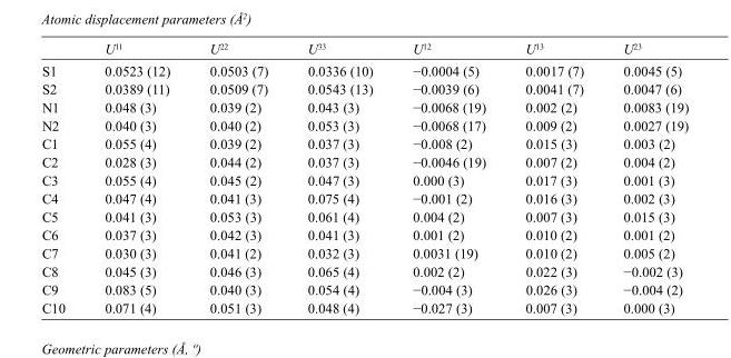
<table><thead><tr><td></td><td>U<sup>11</sup></td><td>U<sup>22</sup></td><td>U<sup>33</sup></td><td>U<sup>12</sup></td><td>U<sup>13</sup></td><td>U<sup>23</sup></td></tr></thead><tbody><tr><td>S1</td><td>0.0523 (12)</td><td>0.0503 (7)</td><td>0.0336 (10)</td><td>−0.0004 (5)</td><td>0.0017 (7)</td><td>0.0045 (5)</td></tr><tr><td>S2</td><td>0.0389 (11)</td><td>0.0509 (7)</td><td>0.0543 (13)</td><td>−0.0039 (6)</td><td>0.0041 (7)</td><td>0.0047 (6)</td></tr><tr><td>N1</td><td>0.048 (3)</td><td>0.039 (2)</td><td>0.043 (3)</td><td>−0.0068 (19)</td><td>0.002 (2)</td><td>0.0083 (19)</td></tr><tr><td>N2</td><td>0.040 (3)</td><td>0.040 (2)</td><td>0.053 (3)</td><td>−0.0068 (17)</td><td>0.009 (2)</td><td>0.0027 (19)</td></tr><tr><td>C1</td><td>0.055 (4)</td><td>0.039 (2)</td><td>0.037 (3)</td><td>−0.008 (2)</td><td>0.015 (3)</td><td>0.003 (2)</td></tr><tr><td>C2</td><td>0.028 (3)</td><td>0.044 (2)</td><td>0.037 (3)</td><td>−0.0046 (19)</td><td>0.007 (2)</td><td>0.004 (2)</td></tr><tr><td>C3</td><td>0.055 (4)</td><td>0.045 (2)</td><td>0.047 (3)</td><td>0.000 (3)</td><td>0.017 (3)</td><td>0.001 (3)</td></tr><tr><td>C4</td><td>0.047 (4)</td><td>0.041 (3)</td><td>0.075 (4)</td><td>−0.001 (2)</td><td>0.016 (3)</td><td>0.002 (3)</td></tr><tr><td>C5</td><td>0.041 (3)</td><td>0.053 (3)</td><td>0.061 (4)</td><td>0.004 (2)</td><td>0.007 (3)</td><td>0.015 (3)</td></tr><tr><td>C6</td><td>0.037 (3)</td><td>0.042 (3)</td><td>0.041 (3)</td><td>0.001 (2)</td><td>0.010 (2)</td><td>0.001 (2)</td></tr><tr><td>C7</td><td>0.030 (3)</td><td>0.041 (2)</td><td>0.032 (3)</td><td>0.0031 (19)</td><td>0.010 (2)</td><td>0.005 (2)</td></tr><tr><td>C8</td><td>0.045 (3)</td><td>0.046 (3)</td><td>0.065 (4)</td><td>0.002 (2)</td><td>0.022 (3)</td><td>−0.002 (3)</td></tr><tr><td>C9</td><td>0.083 (5)</td><td>0.040 (3)</td><td>0.054 (4)</td><td>−0.004 (3)</td><td>0.026 (3)</td><td>−0.004 (2)</td></tr><tr><td>C10</td><td>0.071 (4)</td><td>0.051 (3)</td><td>0.048 (4)</td><td>−0.027 (3)</td><td>0.007 (3)</td><td>0.000 (3)</td></tr></tbody></table>